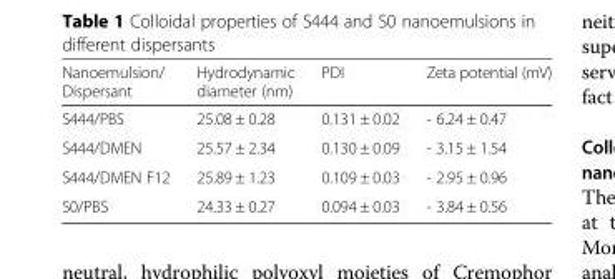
<table><thead><tr><td>Nanoemulsion/ Dispersant</td><td>Hydrodynamic diameter (nm)</td><td>PDI</td><td>Zeta potential (mV)</td></tr></thead><tbody><tr><td>S444/PBS</td><td>25.08 ± 0.28</td><td>0.131 ± 0.02</td><td>- 6.24 ± 0.47</td></tr><tr><td>S444/DMEN</td><td>25.57 ± 2.34</td><td>0.130 ± 0.09</td><td>- 3.15 ± 1.54</td></tr><tr><td>S444/DMEN F12</td><td>25.89 ± 1.23</td><td>0.109 ± 0.03</td><td>- 2.95 ± 0.96</td></tr><tr><td>S0/PBS</td><td>24.33 ± 0.27</td><td>0.094 ± 0.03</td><td>- 3.84 ± 0.56</td></tr></tbody></table>